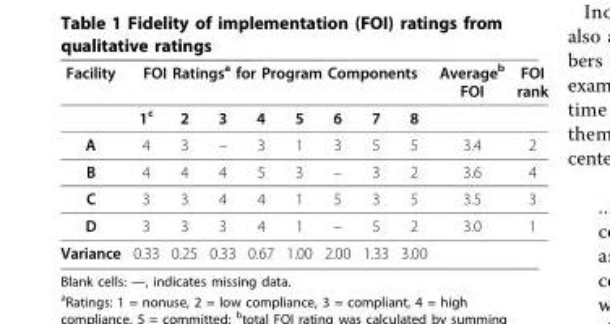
<table><thead><tr><td rowspan="2">Facility</td><td colspan="8">FOI Ratings<sup>a</sup> for Program Components</td><td rowspan="2">Average<sup>b</sup> FOI</td><td rowspan="2">FOI rank</td></tr><tr><td>1<sup>c</sup></td><td>2</td><td>3</td><td>4</td><td>5</td><td>6</td><td>7</td><td>8</td></tr></thead><tbody><tr><td>A</td><td>4</td><td>3</td><td>–</td><td>3</td><td>1</td><td>3</td><td>5</td><td>5</td><td>3.4</td><td>2</td></tr><tr><td>B</td><td>4</td><td>4</td><td>4</td><td>5</td><td>3</td><td>–</td><td>3</td><td>2</td><td>3.6</td><td>4</td></tr><tr><td>C</td><td>3</td><td>3</td><td>4</td><td>4</td><td>1</td><td>5</td><td>3</td><td>5</td><td>3.5</td><td>3</td></tr><tr><td>D</td><td>3</td><td>3</td><td>3</td><td>4</td><td>1</td><td>–</td><td>5</td><td>2</td><td>3.0</td><td>1</td></tr><tr><td>Variance</td><td>0.33</td><td>0.25</td><td>0.33</td><td>0.67</td><td>1.00</td><td>2.00</td><td>1.33</td><td>3.00</td><td></td><td></td></tr></tbody></table>